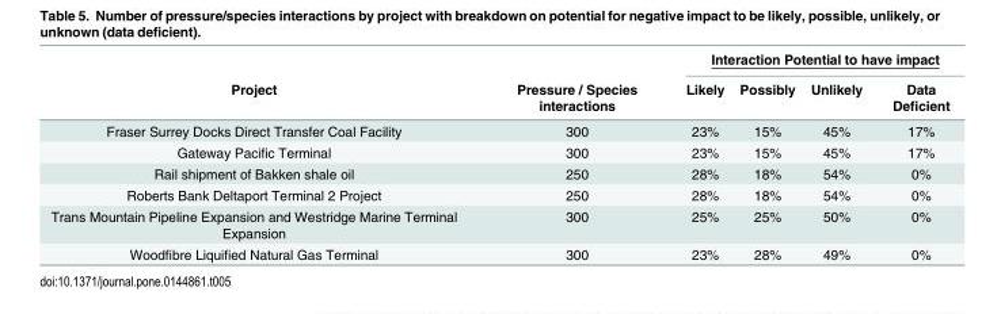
<table><thead><tr><td rowspan="2">Project</td><td rowspan="2">Pressure / Species interactions</td><td colspan="4">Interaction Potential to have impact</td></tr><tr><td>Likely</td><td>Possibly</td><td>Unlikely</td><td>Data Deficient</td></tr></thead><tbody><tr><td>Fraser Surrey Docks Direct Transfer Coal Facility</td><td>300</td><td>23%</td><td>15%</td><td>45%</td><td>17%</td></tr><tr><td>Gateway Pacific Terminal</td><td>300</td><td>23%</td><td>15%</td><td>45%</td><td>17%</td></tr><tr><td>Rail shipment of Bakken shale oil</td><td>250</td><td>28%</td><td>18%</td><td>54%</td><td>0%</td></tr><tr><td>Roberts Bank Deltaport Terminal 2 Project</td><td>250</td><td>28%</td><td>18%</td><td>54%</td><td>0%</td></tr><tr><td>Trans Mountain Pipeline Expansion and Westridge Marine Terminal Expansion</td><td>300</td><td>25%</td><td>25%</td><td>50%</td><td>0%</td></tr><tr><td>Woodfibre Liquified Natural Gas Terminal</td><td>300</td><td>23%</td><td>28%</td><td>49%</td><td>0%</td></tr></tbody></table>